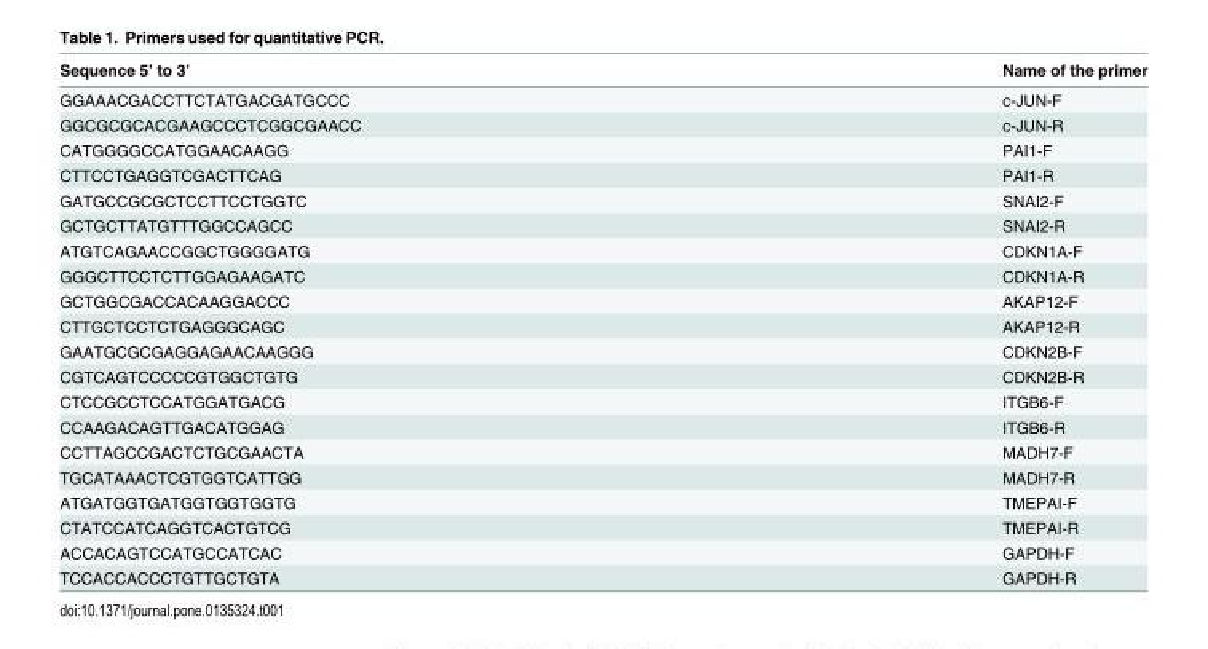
<table><thead><tr><td>Sequence 5’ to 3’</td><td>Name of the primer</td></tr></thead><tbody><tr><td>GGAAACGACCTTCTATGACGATGCCC</td><td>c-JUN-F</td></tr><tr><td>GGCGCGCACGAAGCCCTCGGCGAACC</td><td>c-JUN-R</td></tr><tr><td>CATGGGGCCATGGAACAAGG</td><td>PAI1-F</td></tr><tr><td>CTTCCTGAGGTCGACTTCAG</td><td>PAI1-R</td></tr><tr><td>GATGCCGCGCTCCTTCCTGGTC</td><td>SNAI2-F</td></tr><tr><td>GCTGCTTATGTTTGGCCAGCC</td><td>SNAI2-R</td></tr><tr><td>ATGTCAGAACCGGCTGGGGATG</td><td>CDKN1A-F</td></tr><tr><td>GGGCTTCCTCTTGGAGAAGATC</td><td>CDKN1A-R</td></tr><tr><td>GCTGGCGACCACAAGGACCC</td><td>AKAP12-F</td></tr><tr><td>CTTGCTCCTCTGAGGGCAGC</td><td>AKAP12-R</td></tr><tr><td>GAATGCGCGAGGAGAACAAGGG</td><td>CDKN2B-F</td></tr><tr><td>CGTCAGTCCCCCGTGGCTGTG</td><td>CDKN2B-R</td></tr><tr><td>CTCCGCCTCCATGGATGACG</td><td>ITGB6-F</td></tr><tr><td>CCAAGACAGTTGACATGGAG</td><td>ITGB6-R</td></tr><tr><td>CCTTAGCCGACTCTGCGAACTA</td><td>MADH7-F</td></tr><tr><td>TGCATAAACTCGTGGTCATTGG</td><td>MADH7-R</td></tr><tr><td>ATGATGGTGATGGTGGTGGTG</td><td>TMEPAI-F</td></tr><tr><td>CTATCCATCAGGTCACTGTCG</td><td>TMEPAI-R</td></tr><tr><td>ACCACAGTCCATGCCATCAC</td><td>GAPDH-F</td></tr><tr><td>TCCACCACCCTGTTGCTGTA</td><td>GAPDH-R</td></tr></tbody></table>